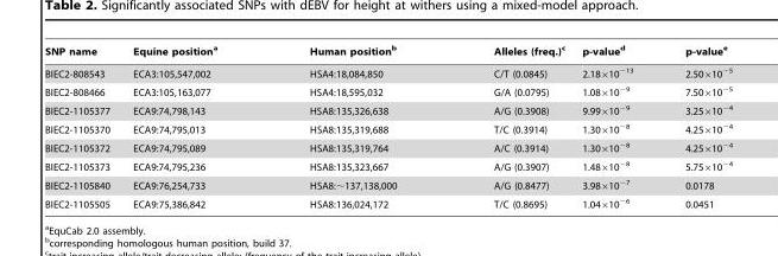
<table><thead><tr><td>SNP name</td><td>Equine position<sup>a</sup></td><td>Human position<sup>b</sup></td><td>Alleles (freq.)<sup>c</sup></td><td>p-value<sup>d</sup></td><td>p-value<sup>e</sup></td></tr></thead><tbody><tr><td>BIEC2-808543</td><td>ECA3:105,547,002</td><td>HSA4:18,084,850</td><td>C/T (0.0845)</td><td>2.18×10<sup>−13</sup></td><td>2.50×10<sup>−5</sup></td></tr><tr><td>BIEC2-808466</td><td>ECA3:105,163,077</td><td>HSA4:18,595,032</td><td>G/A (0.0795)</td><td>1.08×10<sup>−9</sup></td><td>7.50×10<sup>−5</sup></td></tr><tr><td>BIEC2-1105377</td><td>ECA9:74,798,143</td><td>HSA8:135,326,638</td><td>A/G (0.3908)</td><td>9.99×10<sup>−9</sup></td><td>3.25×10<sup>−4</sup></td></tr><tr><td>BIEC2-1105370</td><td>ECA9:74,795,013</td><td>HSA8:135,319,688</td><td>T/C (0.3914)</td><td>1.30×10<sup>−8</sup></td><td>4.25×10<sup>−4</sup></td></tr><tr><td>BIEC2-1105372</td><td>ECA9:74,795,089</td><td>HSA8:135,319,764</td><td>A/C (0.3914)</td><td>1.30×10<sup>−8</sup></td><td>4.25×10<sup>−4</sup></td></tr><tr><td>BIEC2-1105373</td><td>ECA9:74,795,236</td><td>HSA8:135,323,667</td><td>A/G (0.3907)</td><td>1.48×10<sup>−8</sup></td><td>5.75×10<sup>−4</sup></td></tr><tr><td>BIEC2-1105840</td><td>ECA9:76,254,733</td><td>HSA8:∼137,138,000</td><td>A/G (0.8477)</td><td>3.98×10<sup>−7</sup></td><td>0.0178</td></tr><tr><td>BIEC2-1105505</td><td>ECA9:75,386,842</td><td>HSA8:136,024,172</td><td>T/C (0.8695)</td><td>1.04×10<sup>−6</sup></td><td>0.0451</td></tr></tbody></table>